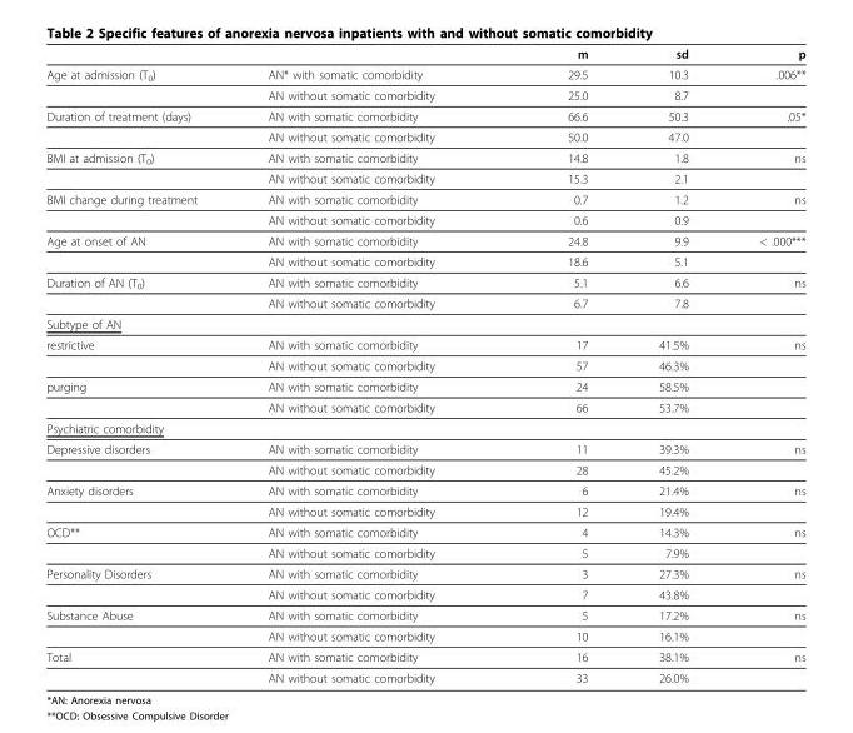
<table><thead><tr><td></td><td></td><td>m</td><td>sd</td><td>p</td></tr></thead><tbody><tr><td rowspan="2">Age at admission (T<sub>0</sub>)</td><td>AN* with somatic comorbidity</td><td>29.5</td><td>10.3</td><td>.006**</td></tr><tr><td>AN without somatic comorbidity</td><td>25.0</td><td>8.7</td><td></td></tr><tr><td rowspan="2">Duration of treatment (days)</td><td>AN with somatic comorbidity</td><td>66.6</td><td>50.3</td><td>.05*</td></tr><tr><td>AN without somatic comorbidity</td><td>50.0</td><td>47.0</td><td></td></tr><tr><td rowspan="2">BMI at admission (T<sub>0</sub>)</td><td>AN with somatic comorbidity</td><td>14.8</td><td>1.8</td><td>ns</td></tr><tr><td>AN without somatic comorbidity</td><td>15.3</td><td>2.1</td><td></td></tr><tr><td rowspan="2">BMI change during treatment</td><td>AN with somatic comorbidity</td><td>0.7</td><td>1.2</td><td>ns</td></tr><tr><td>AN without somatic comorbidity</td><td>0.6</td><td>0.9</td><td></td></tr><tr><td rowspan="2">Age at onset of AN</td><td>AN with somatic comorbidity</td><td>24.8</td><td>9.9</td><td>&lt; .000***</td></tr><tr><td>AN without somatic comorbidity</td><td>18.6</td><td>5.1</td><td></td></tr><tr><td rowspan="2">Duration of AN (T<sub>0</sub>)</td><td>AN with somatic comorbidity</td><td>5.1</td><td>6.6</td><td>ns</td></tr><tr><td>AN without somatic comorbidity</td><td>6.7</td><td>7.8</td><td></td></tr><tr><td colspan="5">Subtype of AN</td></tr><tr><td rowspan="2">restrictive</td><td>AN with somatic comorbidity</td><td>17</td><td>41.5%</td><td>ns</td></tr><tr><td>AN without somatic comorbidity</td><td>57</td><td>46.3%</td><td></td></tr><tr><td rowspan="2">purging</td><td>AN with somatic comorbidity</td><td>24</td><td>58.5%</td><td></td></tr><tr><td>AN without somatic comorbidity</td><td>66</td><td>53.7%</td><td></td></tr><tr><td colspan="5">Psychiatric comorbidity</td></tr><tr><td rowspan="2">Depressive disorders</td><td>AN with somatic comorbidity</td><td>11</td><td>39.3%</td><td>ns</td></tr><tr><td>AN without somatic comorbidity</td><td>28</td><td>45.2%</td><td></td></tr><tr><td rowspan="2">Anxiety disorders</td><td>AN with somatic comorbidity</td><td>6</td><td>21.4%</td><td>ns</td></tr><tr><td>AN without somatic comorbidity</td><td>12</td><td>19.4%</td><td></td></tr><tr><td rowspan="2">OCD**</td><td>AN with somatic comorbidity</td><td>4</td><td>14.3%</td><td>ns</td></tr><tr><td>AN without somatic comorbidity</td><td>5</td><td>7.9%</td><td></td></tr><tr><td rowspan="2">Personality Disorders</td><td>AN with somatic comorbidity</td><td>3</td><td>27.3%</td><td>ns</td></tr><tr><td>AN without somatic comorbidity</td><td>7</td><td>43.8%</td><td></td></tr><tr><td rowspan="2">Substance Abuse</td><td>AN with somatic comorbidity</td><td>5</td><td>17.2%</td><td>ns</td></tr><tr><td>AN without somatic comorbidity</td><td>10</td><td>16.1%</td><td></td></tr><tr><td rowspan="2">Total</td><td>AN with somatic comorbidity</td><td>16</td><td>38.1%</td><td>ns</td></tr><tr><td>AN without somatic comorbidity</td><td>33</td><td>26.0%</td><td></td></tr></tbody></table>